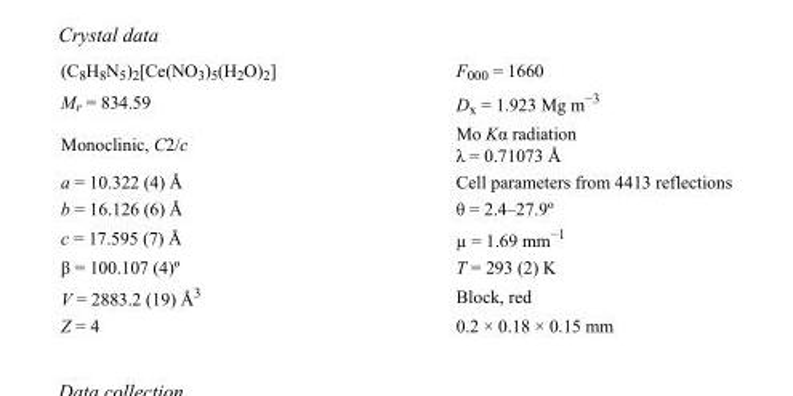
<table><tbody><tr><td>(C<sub>8</sub>H<sub>8</sub>N<sub>5</sub>)<sub>2</sub>[Ce(NO<sub>3</sub>)<sub>5</sub>(H<sub>2</sub>O)<sub>2</sub>]</td><td>F000 = 1660</td></tr><tr><td>M<sub>r</sub> = 834.59</td><td>D<sub>x</sub> = 1.923 Mg m<sup>−3</sup></td></tr><tr><td>Monoclinic, C2/c</td><td>Mo Kα radiation λ = 0.71073 Å</td></tr><tr><td>a = 10.322 (4) Å</td><td>Cell parameters from 4413 reflections</td></tr><tr><td>b = 16.126 (6) Å</td><td>θ = 2.4–27.9º</td></tr><tr><td>c = 17.595 (7) Å</td><td>µ = 1.69 mm<sup>−1</sup></td></tr><tr><td>β = 100.107 (4)º</td><td>T = 293 (2) K</td></tr><tr><td>V = 2883.2 (19) Å<sup>3</sup></td><td>Block, red</td></tr><tr><td>Z = 4</td><td>0.2 × 0.18 × 0.15 mm</td></tr></tbody></table>